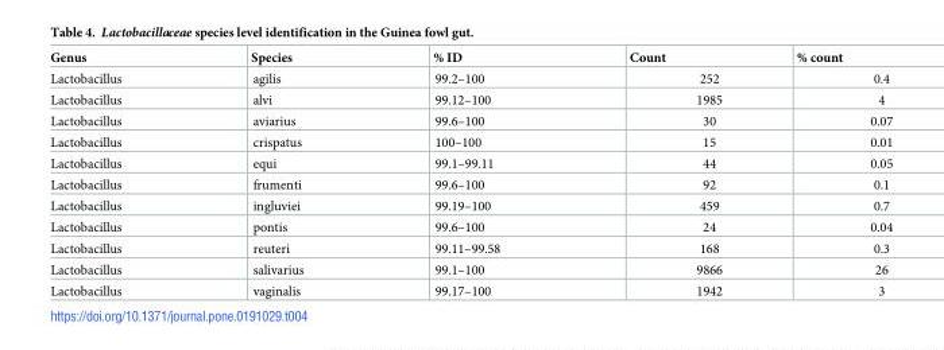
<table><thead><tr><td>Genus</td><td>Species</td><td>% ID</td><td>Count</td><td>% count</td></tr></thead><tbody><tr><td>Lactobacillus</td><td>agilis</td><td>99.2–100</td><td>252</td><td>0.4</td></tr><tr><td>Lactobacillus</td><td>alvi</td><td>99.12–100</td><td>1985</td><td>4</td></tr><tr><td>Lactobacillus</td><td>aviarius</td><td>99.6–100</td><td>30</td><td>0.07</td></tr><tr><td>Lactobacillus</td><td>crispatus</td><td>100–100</td><td>15</td><td>0.01</td></tr><tr><td>Lactobacillus</td><td>equi</td><td>99.1–99.11</td><td>44</td><td>0.05</td></tr><tr><td>Lactobacillus</td><td>frumenti</td><td>99.6–100</td><td>92</td><td>0.1</td></tr><tr><td>Lactobacillus</td><td>ingluviei</td><td>99.19–100</td><td>459</td><td>0.7</td></tr><tr><td>Lactobacillus</td><td>pontis</td><td>99.6–100</td><td>24</td><td>0.04</td></tr><tr><td>Lactobacillus</td><td>reuteri</td><td>99.11–99.58</td><td>168</td><td>0.3</td></tr><tr><td>Lactobacillus</td><td>salivarius</td><td>99.1–100</td><td>9866</td><td>26</td></tr><tr><td>Lactobacillus</td><td>vaginalis</td><td>99.17–100</td><td>1942</td><td>3</td></tr></tbody></table>